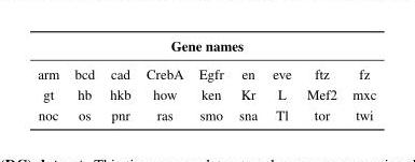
<table><thead><tr><td colspan="9">Gene names</td></tr><tr><td>arm</td><td>bcd</td><td>cad</td><td>CrebA</td><td>Egfr</td><td>en</td><td>eve</td><td>ftz</td><td>fz</td></tr></thead><tbody><tr><td>gt</td><td>hb</td><td>hkb</td><td>how</td><td>ken</td><td>Kr</td><td>L</td><td>Mef2</td><td>mxc</td></tr><tr><td>noc</td><td>os</td><td>pnr</td><td>ras</td><td>smo</td><td>sna</td><td>Tl</td><td>tor</td><td>twi</td></tr></tbody></table>